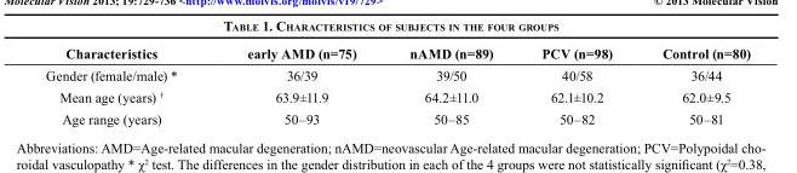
<table><thead><tr><td>Characteristics</td><td>early AMD (n=75)</td><td>nAMD (n=89)</td><td>PCV (n=98)</td><td>Control (n=80)</td></tr></thead><tbody><tr><td>Gender (female/male) *</td><td>36/39</td><td>39/50</td><td>40/58</td><td>36/44</td></tr><tr><td>Mean age (years) <sup>†</sup></td><td>63.9±11.9</td><td>64.2±11.0</td><td>62.1±10.2</td><td>62.0±9.5</td></tr><tr><td>Age range (years)</td><td>50–93</td><td>50–85</td><td>50–82</td><td>50–81</td></tr></tbody></table>